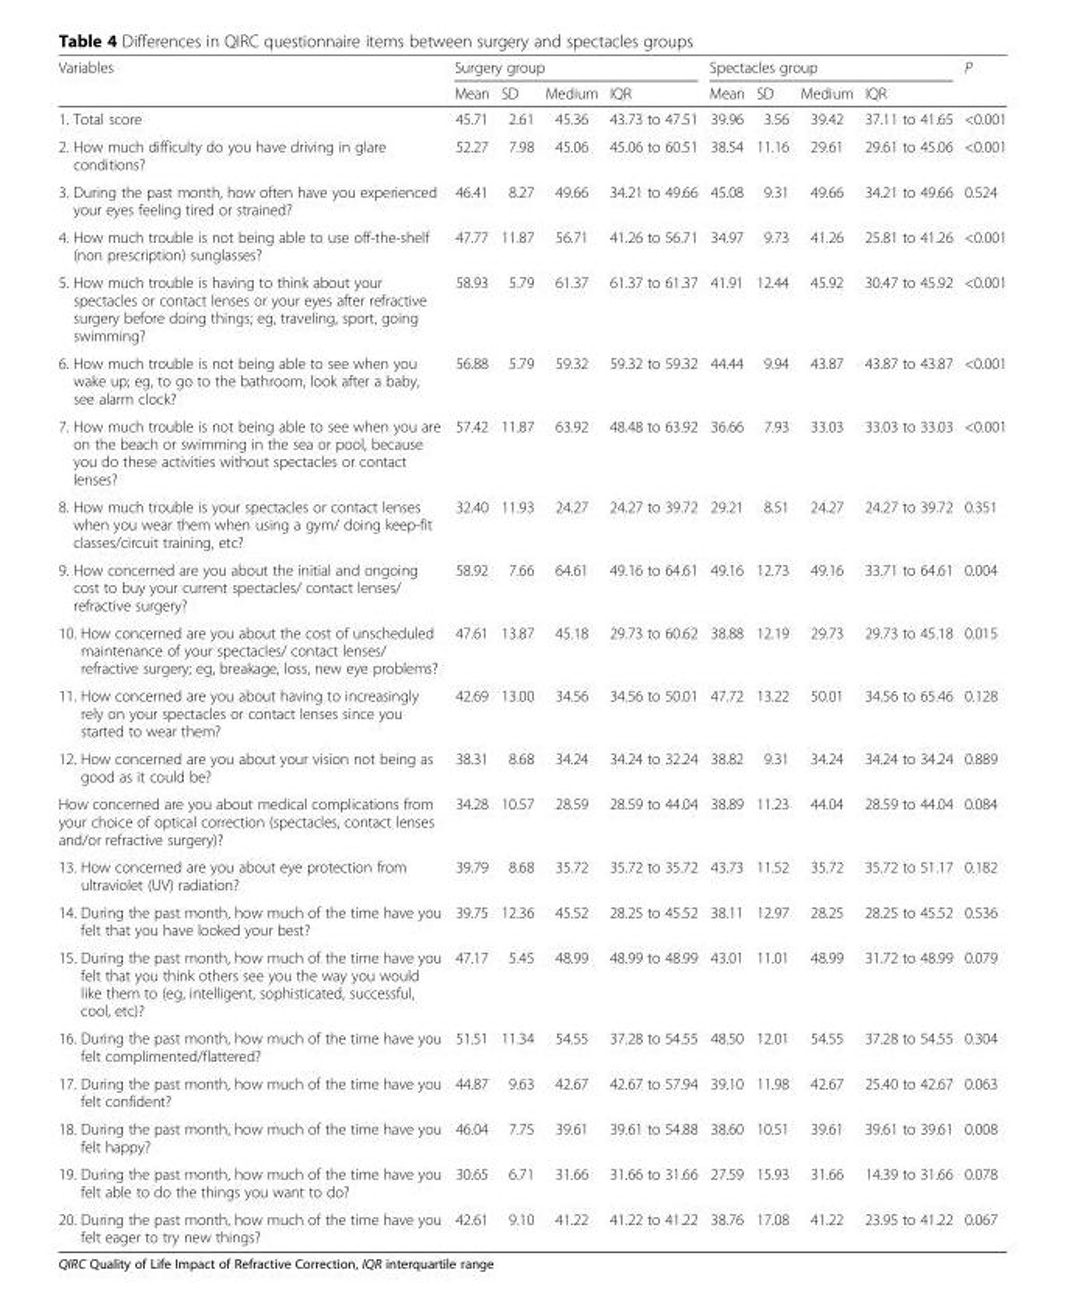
<table><thead><tr><td rowspan="2">Variables</td><td colspan="4">Surgery group</td><td colspan="4">Spectacles group</td><td rowspan="2">P</td></tr><tr><td>Mean</td><td>SD</td><td>Medium</td><td>IQR</td><td>Mean</td><td>SD</td><td>Medium</td><td>IQR</td></tr></thead><tbody><tr><td>1. Total score</td><td>45.71</td><td>2.61</td><td>45.36</td><td>43.73 to 47.51</td><td>39.96</td><td>3.56</td><td>39.42</td><td>37.11 to 41.65</td><td>&lt;0.001</td></tr><tr><td>2. How much difficulty do you have driving in glare conditions?</td><td>52.27</td><td>7.98</td><td>45.06</td><td>45.06 to 60.51</td><td>38.54</td><td>11.16</td><td>29.61</td><td>29.61 to 45.06</td><td>&lt;0.001</td></tr><tr><td>3. During the past month, how often have you experienced your eyes feeling tired or strained?</td><td>46.41</td><td>8.27</td><td>49.66</td><td>34.21 to 49.66</td><td>45.08</td><td>9.31</td><td>49.66</td><td>34.21 to 49.66</td><td>0.524</td></tr><tr><td>4. How much trouble is not being able to use off-the-shelf (non prescription) sunglasses?</td><td>47.77</td><td>11.87</td><td>56.71</td><td>41.26 to 56.71</td><td>34.97</td><td>9.73</td><td>41.26</td><td>25.81 to 41.26</td><td>&lt;0.001</td></tr><tr><td>5. How much trouble is having to think about your spectacles or contact lenses or your eyes after refractive surgery before doing things; eg, traveling, sport, going swimming?</td><td>58.93</td><td>5.79</td><td>61.37</td><td>61.37 to 61.37</td><td>41.91</td><td>12.44</td><td>45.92</td><td>30.47 to 45.92</td><td>&lt;0.001</td></tr><tr><td>6. How much trouble is not being able to see when you wake up; eg, to go to the bathroom, look after a baby, see alarm clock?</td><td>56.88</td><td>5.79</td><td>59.32</td><td>59.32 to 59.32</td><td>44.44</td><td>9.94</td><td>43.87</td><td>43.87 to 43.87</td><td>&lt;0.001</td></tr><tr><td>7. How much trouble is not being able to see when you are on the beach or swimming in the sea or pool, because you do these activities without spectacles or contact lenses?</td><td>57.42</td><td>11.87</td><td>63.92</td><td>48.48 to 63.92</td><td>36.66</td><td>7.93</td><td>33.03</td><td>33.03 to 33.03</td><td>&lt;0.001</td></tr><tr><td>8. How much trouble is your spectacles or contact lenses when you wear them when using a gym/ doing keep-fit classes/circuit training, etc?</td><td>32.40</td><td>11.93</td><td>24.27</td><td>24.27 to 39.72</td><td>29.21</td><td>8.51</td><td>24.27</td><td>24.27 to 39.72</td><td>0.351</td></tr><tr><td>9. How concerned are you about the initial and ongoing cost to buy your current spectacles/ contact lenses/ refractive surgery?</td><td>58.92</td><td>7.66</td><td>64.61</td><td>49.16 to 64.61</td><td>49.16</td><td>12.73</td><td>49.16</td><td>33.71 to 64.61</td><td>0.004</td></tr><tr><td>10. How concerned are you about the cost of unscheduled maintenance of your spectacles/ contact lenses/ refractive surgery; eg, breakage, loss, new eye problems?</td><td>47.61</td><td>13.87</td><td>45.18</td><td>29.73 to 60.62</td><td>38.88</td><td>12.19</td><td>29.73</td><td>29.73 to 45.18</td><td>0.015</td></tr><tr><td>11. How concerned are you about having to increasingly rely on your spectacles or contact lenses since you started to wear them?</td><td>42.69</td><td>13.00</td><td>34.56</td><td>34.56 to 50.01</td><td>47.72</td><td>13.22</td><td>50.01</td><td>34.56 to 65.46</td><td>0.128</td></tr><tr><td>12. How concerned are you about your vision not being as good as it could be?</td><td>38.31</td><td>8.68</td><td>34.24</td><td>34.24 to 32.24</td><td>38.82</td><td>9.31</td><td>34.24</td><td>34.24 to 34.24</td><td>0.889</td></tr><tr><td>How concerned are you about medical complications from your choice of optical correction (spectacles, contact lenses and/or refractive surgery)?</td><td>34.28</td><td>10.57</td><td>28.59</td><td>28.59 to 44.04</td><td>38.89</td><td>11.23</td><td>44.04</td><td>28.59 to 44.04</td><td>0.084</td></tr><tr><td>13. How concerned are you about eye protection from ultraviolet (UV) radiation?</td><td>39.79</td><td>8.68</td><td>35.72</td><td>35.72 to 35.72</td><td>43.73</td><td>11.52</td><td>35.72</td><td>35.72 to 51.17</td><td>0.182</td></tr><tr><td>14. During the past month, how much of the time have you felt that you have looked your best?</td><td>39.75</td><td>12.36</td><td>45.52</td><td>28.25 to 45.52</td><td>38.11</td><td>12.97</td><td>28.25</td><td>28.25 to 45.52</td><td>0.536</td></tr><tr><td>15. During the past month, how much of the time have you felt that you think others see you the way you would like them to (eg, intelligent, sophisticated, successful, cool, etc)?</td><td>47.17</td><td>5.45</td><td>48.99</td><td>48.99 to 48.99</td><td>43.01</td><td>11.01</td><td>48.99</td><td>31.72 to 48.99</td><td>0.079</td></tr><tr><td>16. During the past month, how much of the time have you felt complimented/flattered?</td><td>51.51</td><td>11.34</td><td>54.55</td><td>37.28 to 54.55</td><td>48.50</td><td>12.01</td><td>54.55</td><td>37.28 to 54.55</td><td>0.304</td></tr><tr><td>17. During the past month, how much of the time have you felt confident?</td><td>44.87</td><td>9.63</td><td>42.67</td><td>42.67 to 57.94</td><td>39.10</td><td>11.98</td><td>42.67</td><td>25.40 to 42.67</td><td>0.063</td></tr><tr><td>18. During the past month, how much of the time have you felt happy?</td><td>46.04</td><td>7.75</td><td>39.61</td><td>39.61 to 54.88</td><td>38.60</td><td>10.51</td><td>39.61</td><td>39.61 to 39.61</td><td>0.008</td></tr><tr><td>19. During the past month, how much of the time have you felt able to do the things you want to do?</td><td>30.65</td><td>6.71</td><td>31.66</td><td>31.66 to 31.66</td><td>27.59</td><td>15.93</td><td>31.66</td><td>14.39 to 31.66</td><td>0.078</td></tr><tr><td>20. During the past month, how much of the time have you felt eager to try new things?</td><td>42.61</td><td>9.10</td><td>41.22</td><td>41.22 to 41.22</td><td>38.76</td><td>17.08</td><td>41.22</td><td>23.95 to 41.22</td><td>0.067</td></tr></tbody></table>